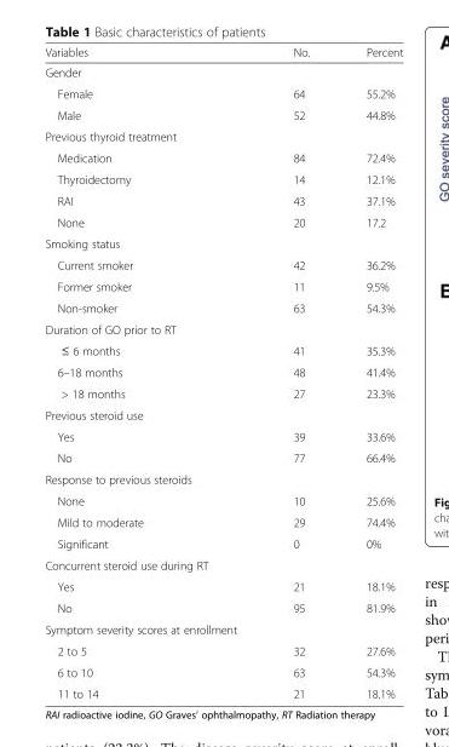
<table><thead><tr><td>Variables</td><td>No.</td><td>Percent</td></tr></thead><tbody><tr><td colspan="3">Gender</td></tr><tr><td>Female</td><td>64</td><td>55.2%</td></tr><tr><td>Male</td><td>52</td><td>44.8%</td></tr><tr><td colspan="3">Previous thyroid treatment</td></tr><tr><td>Medication</td><td>84</td><td>72.4%</td></tr><tr><td>Thyroidectomy</td><td>14</td><td>12.1%</td></tr><tr><td>RAI</td><td>43</td><td>37.1%</td></tr><tr><td>None</td><td>20</td><td>17.2</td></tr><tr><td colspan="3">Smoking status</td></tr><tr><td>Current smoker</td><td>42</td><td>36.2%</td></tr><tr><td>Former smoker</td><td>11</td><td>9.5%</td></tr><tr><td>Non-smoker</td><td>63</td><td>54.3%</td></tr><tr><td colspan="3">Duration of GO prior to RT</td></tr><tr><td>≤ 6 months</td><td>41</td><td>35.3%</td></tr><tr><td>6–18 months</td><td>48</td><td>41.4%</td></tr><tr><td>&gt; 18 months</td><td>27</td><td>23.3%</td></tr><tr><td colspan="3">Previous steroid use</td></tr><tr><td>Yes</td><td>39</td><td>33.6%</td></tr><tr><td>No</td><td>77</td><td>66.4%</td></tr><tr><td colspan="3">Response to previous steroids</td></tr><tr><td>None</td><td>10</td><td>25.6%</td></tr><tr><td>Mild to moderate</td><td>29</td><td>74.4%</td></tr><tr><td>Significant</td><td>0</td><td>0%</td></tr><tr><td colspan="3">Concurrent steroid use during RT</td></tr><tr><td>Yes</td><td>21</td><td>18.1%</td></tr><tr><td>No</td><td>95</td><td>81.9%</td></tr><tr><td colspan="3">Symptom severity scores at enrollment</td></tr><tr><td>2 to 5</td><td>32</td><td>27.6%</td></tr><tr><td>6 to 10</td><td>63</td><td>54.3%</td></tr><tr><td>11 to 14</td><td>21</td><td>18.1%</td></tr></tbody></table>